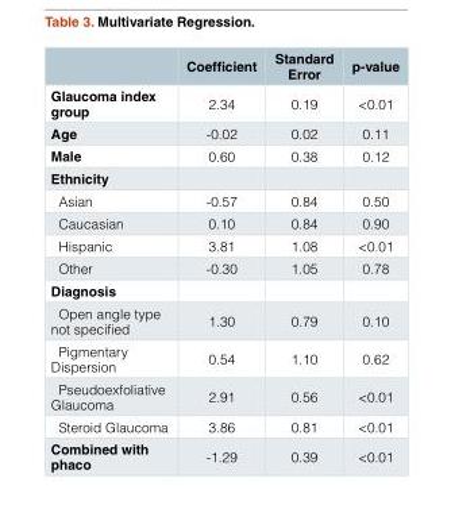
<table><thead><tr><td></td><td>Coefficient</td><td>Standard Error</td><td>p-value</td></tr></thead><tbody><tr><td>Glaucoma index group</td><td>2.34</td><td>0.19</td><td>&lt;0.01</td></tr><tr><td>Age</td><td>-0.02</td><td>0.02</td><td>0.11</td></tr><tr><td>Male</td><td>0.60</td><td>0.38</td><td>0.12</td></tr><tr><td colspan="4">Ethnicity</td></tr><tr><td>Asian</td><td>-0.57</td><td>0.84</td><td>0.50</td></tr><tr><td>Caucasian</td><td>0.10</td><td>0.84</td><td>0.90</td></tr><tr><td>Hispanic</td><td>3.81</td><td>1.08</td><td>&lt;0.01</td></tr><tr><td>Other</td><td>-0.30</td><td>1.05</td><td>0.78</td></tr><tr><td colspan="4">Diagnosis</td></tr><tr><td>Open angle type not specified</td><td>1.30</td><td>0.79</td><td>0.10</td></tr><tr><td>Pigmentary Dispersion</td><td>0.54</td><td>1.10</td><td>0.62</td></tr><tr><td>Pseudoexfoliative Glaucoma</td><td>2.91</td><td>0.56</td><td>&lt;0.01</td></tr><tr><td>Steroid Glaucoma</td><td>3.86</td><td>0.81</td><td>&lt;0.01</td></tr><tr><td>Combined with phaco</td><td>-1.29</td><td>0.39</td><td>&lt;0.01</td></tr></tbody></table>